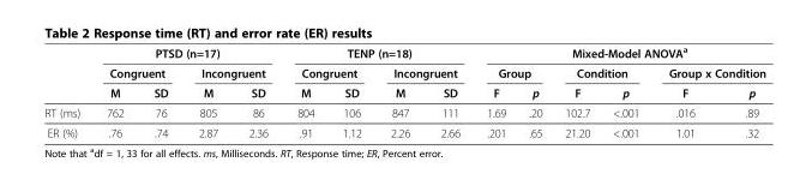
<table><thead><tr><td rowspan="3"></td><td colspan="4">PTSD (n=17)</td><td colspan="4">TENP (n=18)</td><td colspan="6">Mixed-Model ANOVA<sup>a</sup></td></tr><tr><td colspan="2">Congruent</td><td colspan="2">Incongruent</td><td colspan="2">Congruent</td><td colspan="2">Incongruent</td><td colspan="2">Group</td><td colspan="2">Condition</td><td colspan="2">Group x Condition</td></tr><tr><td>M</td><td>SD</td><td>M</td><td>SD</td><td>M</td><td>SD</td><td>M</td><td>SD</td><td>F</td><td>p</td><td>F</td><td>p</td><td>F</td><td>p</td></tr></thead><tbody><tr><td>RT (ms)</td><td>762</td><td>76</td><td>805</td><td>86</td><td>804</td><td>106</td><td>847</td><td>111</td><td>1.69</td><td>.20</td><td>102.7</td><td>&lt;.001</td><td>.016</td><td>.89</td></tr><tr><td>ER (%)</td><td>.76</td><td>.74</td><td>2.87</td><td>2.36</td><td>.91</td><td>1.12</td><td>2.26</td><td>2.66</td><td>.201</td><td>.65</td><td>21.20</td><td>&lt;.001</td><td>1.01</td><td>.32</td></tr></tbody></table>